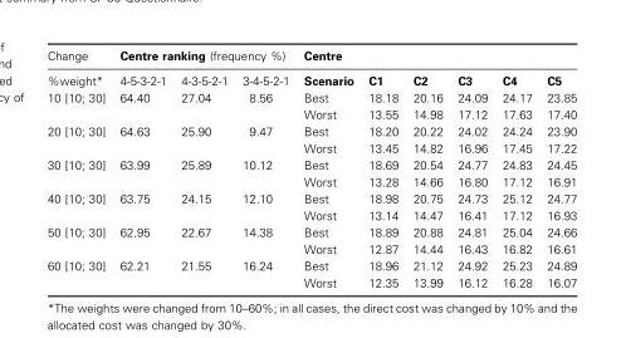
<table><thead><tr><td rowspan="2">Change %weight*</td><td colspan="3">Centre ranking (frequency %)</td><td colspan="6">Centre</td></tr><tr><td>4-5-3-2-1</td><td>4-3-5-2-1</td><td>3-4-5-2-1</td><td>Scenario</td><td>C1</td><td>C2</td><td>C3</td><td>C4</td><td>C5</td></tr></thead><tbody><tr><td rowspan="2">10 [10; 30]</td><td>64.40</td><td>27.04</td><td>8.56</td><td>Best</td><td>18.18</td><td>20.16</td><td>24.09</td><td>24.17</td><td>23.85</td></tr><tr><td></td><td></td><td></td><td>Worst</td><td>13.55</td><td>14.98</td><td>17.12</td><td>17.63</td><td>17.40</td></tr><tr><td rowspan="2">20 [10; 30]</td><td>64.63</td><td>25.90</td><td>9.47</td><td>Best</td><td>18.20</td><td>20.22</td><td>24.02</td><td>24.24</td><td>23.90</td></tr><tr><td></td><td></td><td></td><td>Worst</td><td>13.45</td><td>14.82</td><td>16.96</td><td>17.45</td><td>17.22</td></tr><tr><td rowspan="2">30 [10; 30]</td><td>63.99</td><td>25.89</td><td>10.12</td><td>Best</td><td>18.69</td><td>20.54</td><td>24.77</td><td>24.83</td><td>24.45</td></tr><tr><td></td><td></td><td></td><td>Worst</td><td>13.28</td><td>14.66</td><td>16.80</td><td>17.12</td><td>16.91</td></tr><tr><td rowspan="2">40 [10; 30]</td><td>63.75</td><td>24.15</td><td>12.10</td><td>Best</td><td>18.98</td><td>20.75</td><td>24.73</td><td>25.12</td><td>24.77</td></tr><tr><td></td><td></td><td></td><td>Worst</td><td>13.14</td><td>14.47</td><td>16.41</td><td>17.12</td><td>16.93</td></tr><tr><td rowspan="2">50 [10; 30]</td><td>62.95</td><td>22.67</td><td>14.38</td><td>Best</td><td>18.89</td><td>20.88</td><td>24.81</td><td>25.04</td><td>24.66</td></tr><tr><td></td><td></td><td></td><td>Worst</td><td>12.87</td><td>14.44</td><td>16.43</td><td>16.82</td><td>16.61</td></tr><tr><td rowspan="2">60 [10; 30]</td><td>62.21</td><td>21.55</td><td>16.24</td><td>Best</td><td>18.96</td><td>21.12</td><td>24.92</td><td>25.23</td><td>24.89</td></tr><tr><td></td><td></td><td></td><td>Worst</td><td>12.35</td><td>13.99</td><td>16.12</td><td>16.28</td><td>16.07</td></tr></tbody></table>